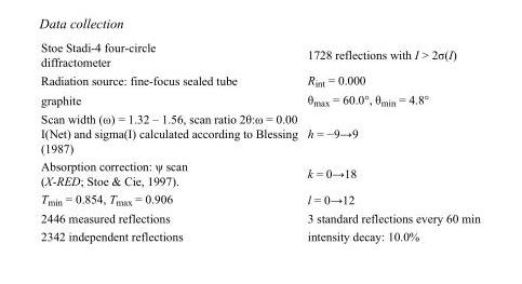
<table><tbody><tr><td>Stoe Stadi-4 four-circle diffractometer</td><td>1728 reflections with I &gt; 2σ(I)</td></tr><tr><td>Radiation source: fine-focus sealed tube</td><td>Rint = 0.000</td></tr><tr><td>graphite</td><td>θ<sub>max</sub> = 60.0°, θ<sub>min</sub> = 4.8°</td></tr><tr><td>Scan width (ω) = 1.32 – 1.56, scan ratio 2θ:ω = 0.00 I(Net) and sigma(I) calculated according to Blessing (1987)</td><td>h = −9→9</td></tr><tr><td>Absorption correction: ψ scan (X-RED; Stoe &amp; Cie, 1997).</td><td>k = 0→18</td></tr><tr><td>T<sub>min</sub> = 0.854, T<sub>max</sub> = 0.906</td><td>l = 0→12</td></tr><tr><td>2446 measured reflections</td><td>3 standard reflections every 60 min</td></tr><tr><td>2342 independent reflections</td><td>intensity decay: 10.0%</td></tr></tbody></table>